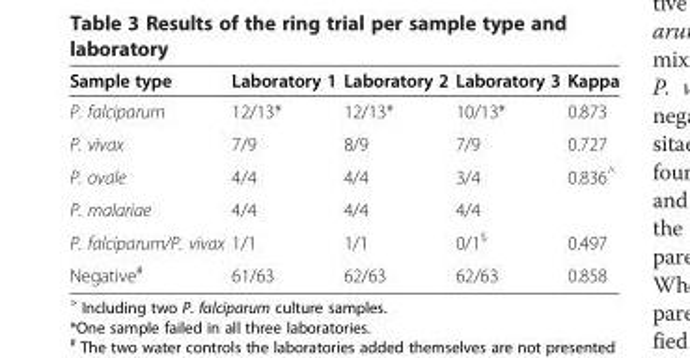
<table><thead><tr><td>Sample type</td><td>Laboratory 1</td><td>Laboratory 2</td><td>Laboratory 3</td><td>Kappa</td></tr></thead><tbody><tr><td>P. falciparum</td><td>12/13*</td><td>12/13*</td><td>10/13*</td><td>0.873</td></tr><tr><td>P. vivax</td><td>7/9</td><td>8/9</td><td>7/9</td><td>0.727</td></tr><tr><td>P. ovale</td><td>4/4</td><td>4/4</td><td>3/4</td><td>0.836<sup>^</sup></td></tr><tr><td>P. malariae</td><td>4/4</td><td>4/4</td><td>4/4</td><td></td></tr><tr><td>P. falciparum/P. vivax</td><td>1/1</td><td>1/1</td><td>0/1<sup>$</sup></td><td>0.497</td></tr><tr><td>Negative<sup>#</sup></td><td>61/63</td><td>62/63</td><td>62/63</td><td>0.858</td></tr></tbody></table>